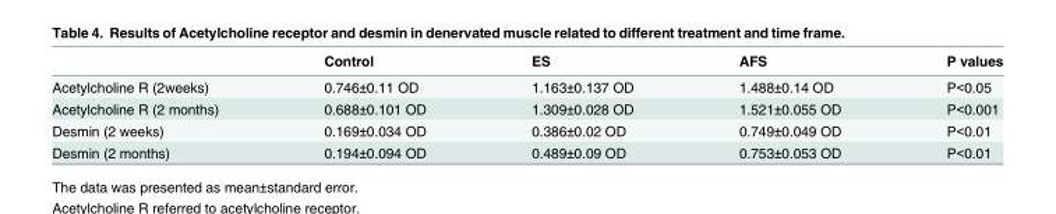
<table><thead><tr><td></td><td>Control</td><td>ES</td><td>AFS</td><td>P values</td></tr></thead><tbody><tr><td>Acetylcholine R (2weeks)</td><td>0.746±0.11 OD</td><td>1.163±0.137 OD</td><td>1.488±0.14 OD</td><td>P&lt;0.05</td></tr><tr><td>Acetylcholine R (2 months)</td><td>0.688±0.101 OD</td><td>1.309±0.028 OD</td><td>1.521±0.055 OD</td><td>P&lt;0.001</td></tr><tr><td>Desmin (2 weeks)</td><td>0.169±0.034 OD</td><td>0.386±0.02 OD</td><td>0.749±0.049 OD</td><td>P&lt;0.01</td></tr><tr><td>Desmin (2 months)</td><td>0.194±0.094 OD</td><td>0.489±0.09 OD</td><td>0.753±0.053 OD</td><td>P&lt;0.01</td></tr></tbody></table>